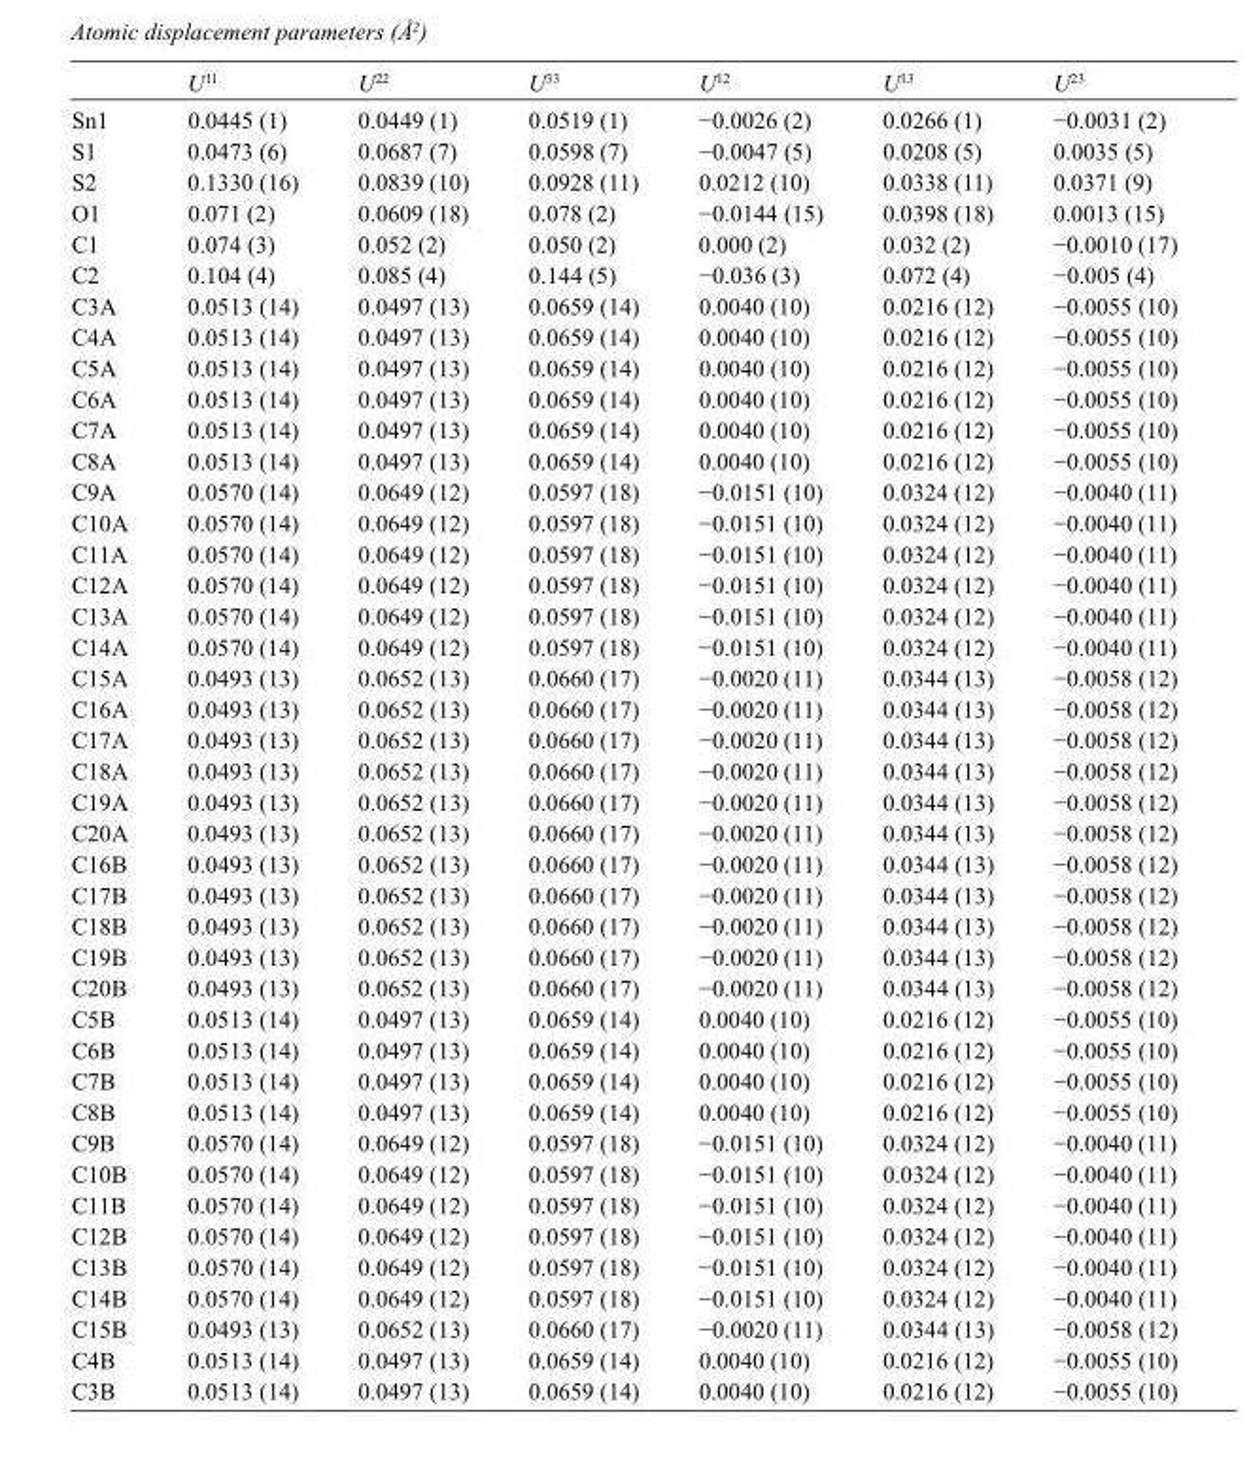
<table><thead><tr><td></td><td>U<sup>11</sup></td><td>U<sup>22</sup></td><td>U<sup>33</sup></td><td>U<sup>12</sup></td><td>U<sup>13</sup></td><td>U<sup>23</sup></td></tr></thead><tbody><tr><td>Sn1</td><td>0.0445 (1)</td><td>0.0449 (1)</td><td>0.0519 (1)</td><td>−0.0026 (2)</td><td>0.0266 (1)</td><td>−0.0031 (2)</td></tr><tr><td>S1</td><td>0.0473 (6)</td><td>0.0687 (7)</td><td>0.0598 (7)</td><td>−0.0047 (5)</td><td>0.0208 (5)</td><td>0.0035 (5)</td></tr><tr><td>S2</td><td>0.1330 (16)</td><td>0.0839 (10)</td><td>0.0928 (11)</td><td>0.0212 (10)</td><td>0.0338 (11)</td><td>0.0371 (9)</td></tr><tr><td>O1</td><td>0.071 (2)</td><td>0.0609 (18)</td><td>0.078 (2)</td><td>−0.0144 (15)</td><td>0.0398 (18)</td><td>0.0013 (15)</td></tr><tr><td>C1</td><td>0.074 (3)</td><td>0.052 (2)</td><td>0.050 (2)</td><td>0.000 (2)</td><td>0.032 (2)</td><td>−0.0010 (17)</td></tr><tr><td>C2</td><td>0.104 (4)</td><td>0.085 (4)</td><td>0.144 (5)</td><td>−0.036 (3)</td><td>0.072 (4)</td><td>−0.005 (4)</td></tr><tr><td>C3A</td><td>0.0513 (14)</td><td>0.0497 (13)</td><td>0.0659 (14)</td><td>0.0040 (10)</td><td>0.0216 (12)</td><td>−0.0055 (10)</td></tr><tr><td>C4A</td><td>0.0513 (14)</td><td>0.0497 (13)</td><td>0.0659 (14)</td><td>0.0040 (10)</td><td>0.0216 (12)</td><td>−0.0055 (10)</td></tr><tr><td>C5A</td><td>0.0513 (14)</td><td>0.0497 (13)</td><td>0.0659 (14)</td><td>0.0040 (10)</td><td>0.0216 (12)</td><td>−0.0055 (10)</td></tr><tr><td>C6A</td><td>0.0513 (14)</td><td>0.0497 (13)</td><td>0.0659 (14)</td><td>0.0040 (10)</td><td>0.0216 (12)</td><td>−0.0055 (10)</td></tr><tr><td>C7A</td><td>0.0513 (14)</td><td>0.0497 (13)</td><td>0.0659 (14)</td><td>0.0040 (10)</td><td>0.0216 (12)</td><td>−0.0055 (10)</td></tr><tr><td>C8A</td><td>0.0513 (14)</td><td>0.0497 (13)</td><td>0.0659 (14)</td><td>0.0040 (10)</td><td>0.0216 (12)</td><td>−0.0055 (10)</td></tr><tr><td>C9A</td><td>0.0570 (14)</td><td>0.0649 (12)</td><td>0.0597 (18)</td><td>−0.0151 (10)</td><td>0.0324 (12)</td><td>−0.0040 (11)</td></tr><tr><td>C10A</td><td>0.0570 (14)</td><td>0.0649 (12)</td><td>0.0597 (18)</td><td>−0.0151 (10)</td><td>0.0324 (12)</td><td>−0.0040 (11)</td></tr><tr><td>C11A</td><td>0.0570 (14)</td><td>0.0649 (12)</td><td>0.0597 (18)</td><td>−0.0151 (10)</td><td>0.0324 (12)</td><td>−0.0040 (11)</td></tr><tr><td>C12A</td><td>0.0570 (14)</td><td>0.0649 (12)</td><td>0.0597 (18)</td><td>−0.0151 (10)</td><td>0.0324 (12)</td><td>−0.0040 (11)</td></tr><tr><td>C13A</td><td>0.0570 (14)</td><td>0.0649 (12)</td><td>0.0597 (18)</td><td>−0.0151 (10)</td><td>0.0324 (12)</td><td>−0.0040 (11)</td></tr><tr><td>C14A</td><td>0.0570 (14)</td><td>0.0649 (12)</td><td>0.0597 (18)</td><td>−0.0151 (10)</td><td>0.0324 (12)</td><td>−0.0040 (11)</td></tr><tr><td>C15A</td><td>0.0493 (13)</td><td>0.0652 (13)</td><td>0.0660 (17)</td><td>−0.0020 (11)</td><td>0.0344 (13)</td><td>−0.0058 (12)</td></tr><tr><td>C16A</td><td>0.0493 (13)</td><td>0.0652 (13)</td><td>0.0660 (17)</td><td>−0.0020 (11)</td><td>0.0344 (13)</td><td>−0.0058 (12)</td></tr><tr><td>C17A</td><td>0.0493 (13)</td><td>0.0652 (13)</td><td>0.0660 (17)</td><td>−0.0020 (11)</td><td>0.0344 (13)</td><td>−0.0058 (12)</td></tr><tr><td>C18A</td><td>0.0493 (13)</td><td>0.0652 (13)</td><td>0.0660 (17)</td><td>−0.0020 (11)</td><td>0.0344 (13)</td><td>−0.0058 (12)</td></tr><tr><td>C19A</td><td>0.0493 (13)</td><td>0.0652 (13)</td><td>0.0660 (17)</td><td>−0.0020 (11)</td><td>0.0344 (13)</td><td>−0.0058 (12)</td></tr><tr><td>C20A</td><td>0.0493 (13)</td><td>0.0652 (13)</td><td>0.0660 (17)</td><td>−0.0020 (11)</td><td>0.0344 (13)</td><td>−0.0058 (12)</td></tr><tr><td>C16B</td><td>0.0493 (13)</td><td>0.0652 (13)</td><td>0.0660 (17)</td><td>−0.0020 (11)</td><td>0.0344 (13)</td><td>−0.0058 (12)</td></tr><tr><td>C17B</td><td>0.0493 (13)</td><td>0.0652 (13)</td><td>0.0660 (17)</td><td>−0.0020 (11)</td><td>0.0344 (13)</td><td>−0.0058 (12)</td></tr><tr><td>C18B</td><td>0.0493 (13)</td><td>0.0652 (13)</td><td>0.0660 (17)</td><td>−0.0020 (11)</td><td>0.0344 (13)</td><td>−0.0058 (12)</td></tr><tr><td>C19B</td><td>0.0493 (13)</td><td>0.0652 (13)</td><td>0.0660 (17)</td><td>−0.0020 (11)</td><td>0.0344 (13)</td><td>−0.0058 (12)</td></tr><tr><td>C20B</td><td>0.0493 (13)</td><td>0.0652 (13)</td><td>0.0660 (17)</td><td>−0.0020 (11)</td><td>0.0344 (13)</td><td>−0.0058 (12)</td></tr><tr><td>C5B</td><td>0.0513 (14)</td><td>0.0497 (13)</td><td>0.0659 (14)</td><td>0.0040 (10)</td><td>0.0216 (12)</td><td>−0.0055 (10)</td></tr><tr><td>C6B</td><td>0.0513 (14)</td><td>0.0497 (13)</td><td>0.0659 (14)</td><td>0.0040 (10)</td><td>0.0216 (12)</td><td>−0.0055 (10)</td></tr><tr><td>C7B</td><td>0.0513 (14)</td><td>0.0497 (13)</td><td>0.0659 (14)</td><td>0.0040 (10)</td><td>0.0216 (12)</td><td>−0.0055 (10)</td></tr><tr><td>C8B</td><td>0.0513 (14)</td><td>0.0497 (13)</td><td>0.0659 (14)</td><td>0.0040 (10)</td><td>0.0216 (12)</td><td>−0.0055 (10)</td></tr><tr><td>C9B</td><td>0.0570 (14)</td><td>0.0649 (12)</td><td>0.0597 (18)</td><td>−0.0151 (10)</td><td>0.0324 (12)</td><td>−0.0040 (11)</td></tr><tr><td>C10B</td><td>0.0570 (14)</td><td>0.0649 (12)</td><td>0.0597 (18)</td><td>−0.0151 (10)</td><td>0.0324 (12)</td><td>−0.0040 (11)</td></tr><tr><td>C11B</td><td>0.0570 (14)</td><td>0.0649 (12)</td><td>0.0597 (18)</td><td>−0.0151 (10)</td><td>0.0324 (12)</td><td>−0.0040 (11)</td></tr><tr><td>C12B</td><td>0.0570 (14)</td><td>0.0649 (12)</td><td>0.0597 (18)</td><td>−0.0151 (10)</td><td>0.0324 (12)</td><td>−0.0040 (11)</td></tr><tr><td>C13B</td><td>0.0570 (14)</td><td>0.0649 (12)</td><td>0.0597 (18)</td><td>−0.0151 (10)</td><td>0.0324 (12)</td><td>−0.0040 (11)</td></tr><tr><td>C14B</td><td>0.0570 (14)</td><td>0.0649 (12)</td><td>0.0597 (18)</td><td>−0.0151 (10)</td><td>0.0324 (12)</td><td>−0.0040 (11)</td></tr><tr><td>C15B</td><td>0.0493 (13)</td><td>0.0652 (13)</td><td>0.0660 (17)</td><td>−0.0020 (11)</td><td>0.0344 (13)</td><td>−0.0058 (12)</td></tr><tr><td>C4B</td><td>0.0513 (14)</td><td>0.0497 (13)</td><td>0.0659 (14)</td><td>0.0040 (10)</td><td>0.0216 (12)</td><td>−0.0055 (10)</td></tr><tr><td>C3B</td><td>0.0513 (14)</td><td>0.0497 (13)</td><td>0.0659 (14)</td><td>0.0040 (10)</td><td>0.0216 (12)</td><td>−0.0055 (10)</td></tr></tbody></table>